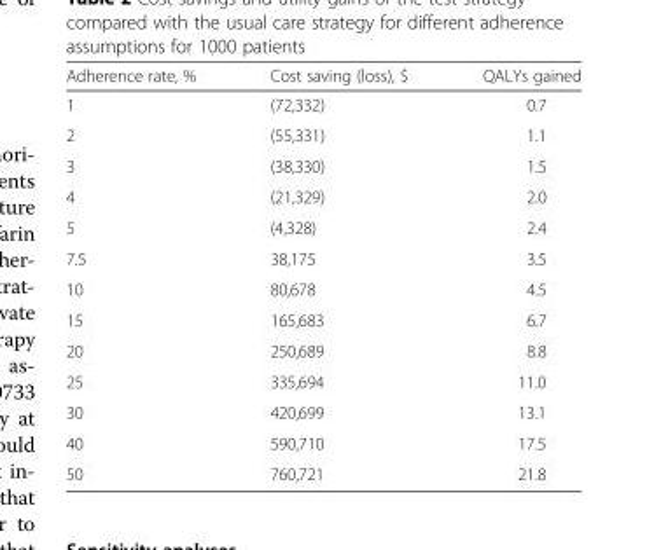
<table><thead><tr><td>Adherence rate, %</td><td>Cost saving (loss), $</td><td>QALYs gained</td></tr></thead><tbody><tr><td>1</td><td>(72,332)</td><td>0.7</td></tr><tr><td>2</td><td>(55,331)</td><td>1.1</td></tr><tr><td>3</td><td>(38,330)</td><td>1.5</td></tr><tr><td>4</td><td>(21,329)</td><td>2.0</td></tr><tr><td>5</td><td>(4,328)</td><td>2.4</td></tr><tr><td>7.5</td><td>38,175</td><td>3.5</td></tr><tr><td>10</td><td>80,678</td><td>4.5</td></tr><tr><td>15</td><td>165,683</td><td>6.7</td></tr><tr><td>20</td><td>250,689</td><td>8.8</td></tr><tr><td>25</td><td>335,694</td><td>11.0</td></tr><tr><td>30</td><td>420,699</td><td>13.1</td></tr><tr><td>40</td><td>590,710</td><td>17.5</td></tr><tr><td>50</td><td>760,721</td><td>21.8</td></tr></tbody></table>